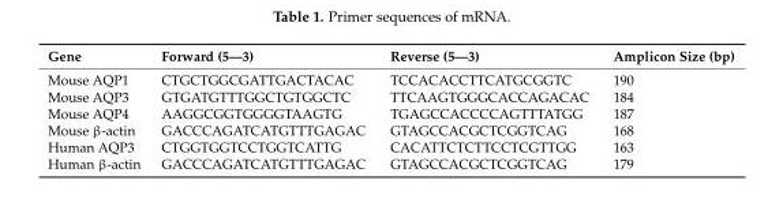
<table><thead><tr><td>Gene</td><td>Forward (5—3)</td><td>Reverse (5—3)</td><td>Amplicon Size (bp)</td></tr></thead><tbody><tr><td>Mouse AQP1</td><td>CTGCTGGCGATTGACTACAC</td><td>TCCACACCTTCATGCGGTC</td><td>190</td></tr><tr><td>Mouse AQP3</td><td>GTGATGTTTGGCTGTGGCTC</td><td>TTCAAGTGGGCACCAGACAC</td><td>184</td></tr><tr><td>Mouse AQP4</td><td>AAGGCGGTGGGGTAAGTG</td><td>TGAGCCACCCCAGTTTATGG</td><td>187</td></tr><tr><td>Mouse β-actin</td><td>GACCCAGATCATGTTTGAGAC</td><td>GTAGCCACGCTCGGTCAG</td><td>168</td></tr><tr><td>Human AQP3</td><td>CTGGTGGTCCTGGTCATTG</td><td>CACATTCTCTTCCTCGTTGG</td><td>163</td></tr><tr><td>Human β-actin</td><td>GACCCAGATCATGTTTGAGAC</td><td>GTAGCCACGCTCGGTCAG</td><td>179</td></tr></tbody></table>